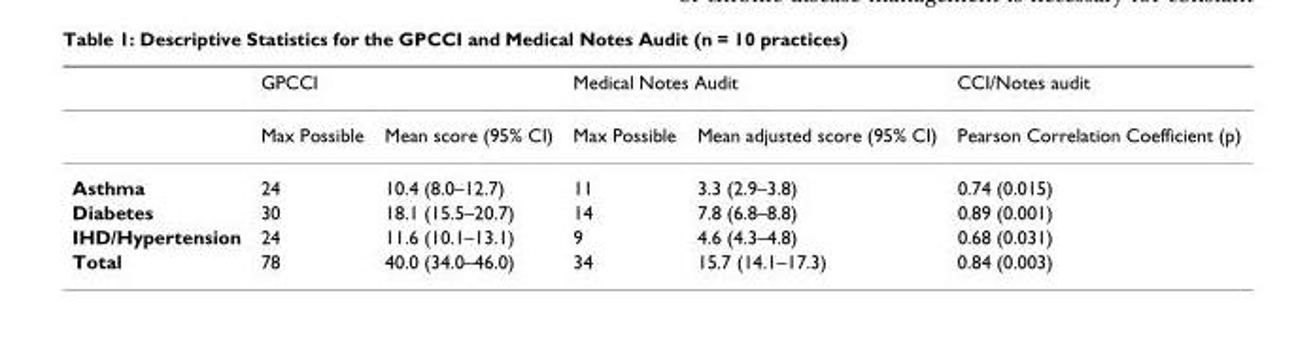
<table><thead><tr><td rowspan="2"></td><td colspan="2">GPCCI</td><td colspan="2">Medical Notes Audit</td><td rowspan="2">CCI/Notes audit Pearson Correlation Coefficient (p)</td></tr><tr><td>Max Possible</td><td>Mean score (95% CI)</td><td>Max Possible</td><td>Mean adjusted score (95% CI)</td></tr></thead><tbody><tr><td>Asthma</td><td>24</td><td>10.4 (8.0–12.7)</td><td>11</td><td>3.3 (2.9–3.8)</td><td>0.74 (0.015)</td></tr><tr><td>Diabetes</td><td>30</td><td>18.1 (15.5–20.7)</td><td>14</td><td>7.8 (6.8–8.8)</td><td>0.89 (0.001)</td></tr><tr><td>IHD/Hypertension</td><td>24</td><td>11.6 (10.1–13.1)</td><td>9</td><td>4.6 (4.3–4.8)</td><td>0.68 (0.031)</td></tr><tr><td>Total</td><td>78</td><td>40.0 (34.0–46.0)</td><td>34</td><td>15.7 (14.1–17.3)</td><td>0.84 (0.003)</td></tr></tbody></table>